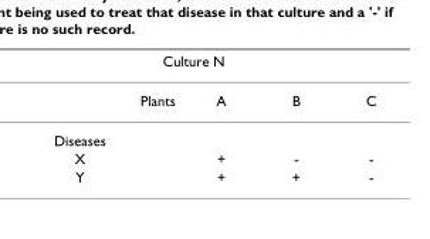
<table><thead><tr><td colspan="4">Culture N</td></tr><tr><td>Plants</td><td>A</td><td>B</td><td>C</td></tr></thead><tbody><tr><td colspan="4">Diseases</td></tr><tr><td>X</td><td>+</td><td>-</td><td>-</td></tr><tr><td>Y</td><td>+</td><td>+</td><td>-</td></tr></tbody></table>